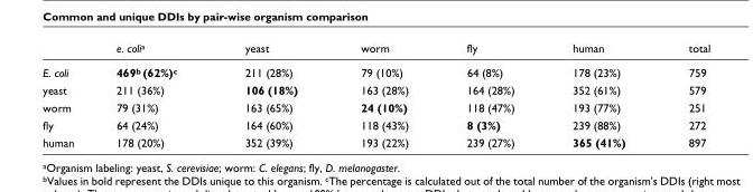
<table><thead><tr><td></td><td>e. colia</td><td>yeast</td><td>worm</td><td>fly</td><td>human</td><td>total</td></tr></thead><tbody><tr><td>E. coli</td><td>469b (62%)c</td><td>211 (28%)</td><td>79 (10%)</td><td>64 (8%)</td><td>178 (23%)</td><td>759</td></tr><tr><td>yeast</td><td>211 (36%)</td><td>106 (18%)</td><td>163 (28%)</td><td>164 (28%)</td><td>352 (61%)</td><td>579</td></tr><tr><td>worm</td><td>79 (31%)</td><td>163 (65%)</td><td>24 (10%)</td><td>118 (47%)</td><td>193 (77%)</td><td>251</td></tr><tr><td>fly</td><td>64 (24%)</td><td>164 (60%)</td><td>118 (43%)</td><td>8 (3%)</td><td>239 (88%)</td><td>272</td></tr><tr><td>human</td><td>178 (20%)</td><td>352 (39%)</td><td>193 (22%)</td><td>239 (27%)</td><td>365 (41%)</td><td>897</td></tr></tbody></table>